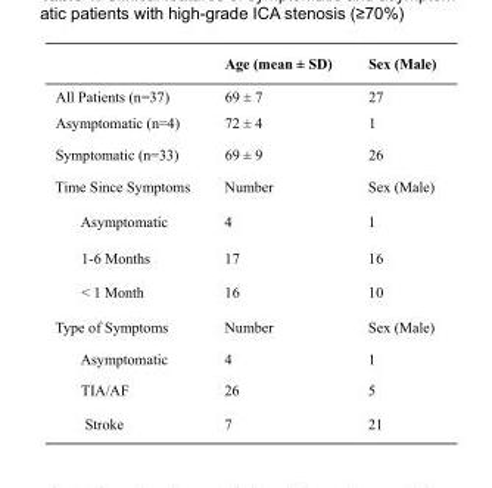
<table><thead><tr><td></td><td>Age (mean ± SD)</td><td>Sex (Male)</td></tr></thead><tbody><tr><td>All Patients (n=37)</td><td>69 ± 7</td><td>27</td></tr><tr><td>Asymptomatic (n=4)</td><td>72 ± 4</td><td>1</td></tr><tr><td>Symptomatic (n=33)</td><td>69 ± 9</td><td>26</td></tr><tr><td>Time Since Symptoms</td><td>Number</td><td>Sex (Male)</td></tr><tr><td>Asymptomatic</td><td>4</td><td>1</td></tr><tr><td>1-6 Months</td><td>17</td><td>16</td></tr><tr><td>&lt; 1 Month</td><td>16</td><td>10</td></tr><tr><td>Type of Symptoms</td><td>Number</td><td>Sex (Male)</td></tr><tr><td>Asymptomatic</td><td>4</td><td>1</td></tr><tr><td>TIA/AF</td><td>26</td><td>5</td></tr><tr><td>Stroke</td><td>7</td><td>21</td></tr></tbody></table>